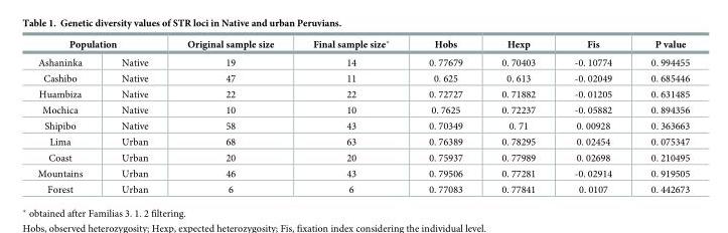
<table><thead><tr><td colspan="2">Population</td><td rowspan="2">Original sample size 19</td><td rowspan="2">Final sample size* 14</td><td rowspan="2">Hobs 0. 77679</td><td rowspan="2">Hexp 0. 70403</td><td rowspan="2">Fis -0. 10774</td><td rowspan="2">P value 0. 994455</td></tr><tr><td>Ashaninka</td><td>Native</td></tr></thead><tbody><tr><td>Cashibo</td><td>Native</td><td>47</td><td>11</td><td>0. 625</td><td>0. 613</td><td>-0. 02049</td><td>0. 685446</td></tr><tr><td>Huambiza</td><td>Native</td><td>22</td><td>22</td><td>0. 72727</td><td>0. 71882</td><td>-0. 01205</td><td>0. 631485</td></tr><tr><td>Mochica</td><td>Native</td><td>10</td><td>10</td><td>0. 7625</td><td>0. 72237</td><td>-0. 05882</td><td>0. 894356</td></tr><tr><td>Shipibo</td><td>Native</td><td>58</td><td>43</td><td>0. 70349</td><td>0. 71</td><td>0. 00928</td><td>0. 363663</td></tr><tr><td>Lima</td><td>Urban</td><td>68</td><td>63</td><td>0. 76389</td><td>0. 78295</td><td>0. 02454</td><td>0. 075347</td></tr><tr><td>Coast</td><td>Urban</td><td>20</td><td>20</td><td>0. 75937</td><td>0. 77989</td><td>0. 02698</td><td>0. 210495</td></tr><tr><td>Mountains</td><td>Urban</td><td>46</td><td>43</td><td>0. 79506</td><td>0. 77281</td><td>-0. 02914</td><td>0. 919505</td></tr><tr><td>Forest</td><td>Urban</td><td>6</td><td>6</td><td>0. 77083</td><td>0. 77841</td><td>0. 0107</td><td>0. 442673</td></tr></tbody></table>